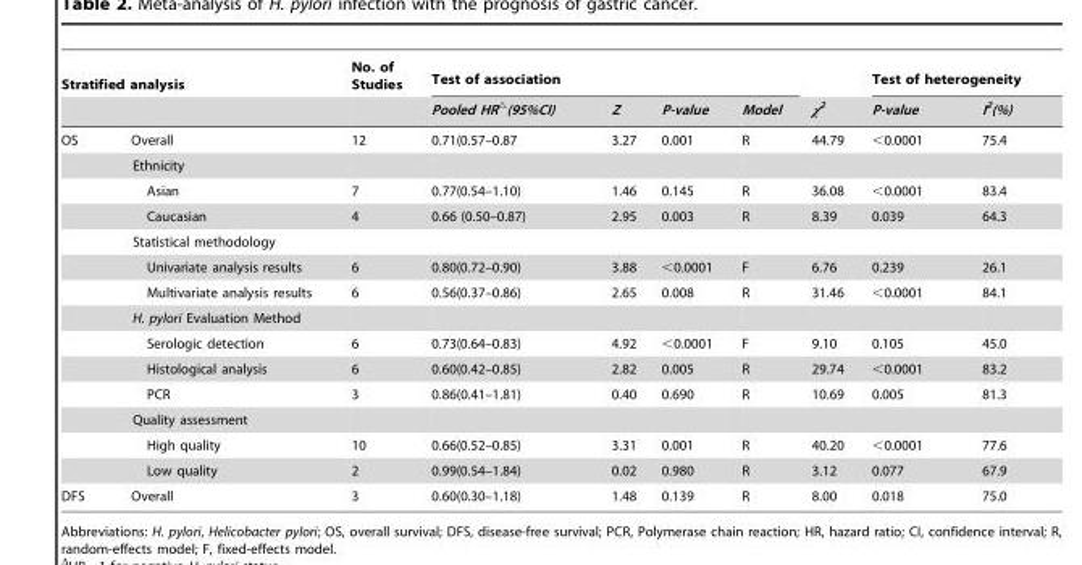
<table><thead><tr><td colspan="2">Stratified analysis</td><td rowspan="2">No. of Studies</td><td colspan="4">Test of association</td><td rowspan="2">χ<sup>2</sup></td><td colspan="2">Test of heterogeneity</td></tr><tr><td></td><td></td><td>Pooled HR<sup>△</sup>(95%CI)</td><td>Z</td><td>P-value</td><td>Model</td><td>P-value</td><td>I<sup>2</sup>(%)</td></tr></thead><tbody><tr><td>OS</td><td>Overall</td><td>12</td><td>0.71(0.57–0.87</td><td>3.27</td><td>0.001</td><td>R</td><td>44.79</td><td>&lt;0.0001</td><td>75.4</td></tr><tr><td colspan="10">Ethnicity</td></tr><tr><td colspan="2">Asian</td><td>7</td><td>0.77(0.54–1.10)</td><td>1.46</td><td>0.145</td><td>R</td><td>36.08</td><td>&lt;0.0001</td><td>83.4</td></tr><tr><td colspan="2">Caucasian</td><td>4</td><td>0.66 (0.50–0.87)</td><td>2.95</td><td>0.003</td><td>R</td><td>8.39</td><td>0.039</td><td>64.3</td></tr><tr><td colspan="10">Statistical methodology</td></tr><tr><td colspan="2">Univariate analysis results</td><td>6</td><td>0.80(0.72–0.90)</td><td>3.88</td><td>&lt;0.0001</td><td>F</td><td>6.76</td><td>0.239</td><td>26.1</td></tr><tr><td colspan="2">Multivariate analysis results</td><td>6</td><td>0.56(0.37–0.86)</td><td>2.65</td><td>0.008</td><td>R</td><td>31.46</td><td>&lt;0.0001</td><td>84.1</td></tr><tr><td colspan="10">H. pylori Evaluation Method</td></tr><tr><td colspan="2">Serologic detection</td><td>6</td><td>0.73(0.64–0.83)</td><td>4.92</td><td>&lt;0.0001</td><td>F</td><td>9.10</td><td>0.105</td><td>45.0</td></tr><tr><td colspan="2">Histological analysis</td><td>6</td><td>0.60(0.42–0.85)</td><td>2.82</td><td>0.005</td><td>R</td><td>29.74</td><td>&lt;0.0001</td><td>83.2</td></tr><tr><td colspan="2">PCR</td><td>3</td><td>0.86(0.41–1.81)</td><td>0.40</td><td>0.690</td><td>R</td><td>10.69</td><td>0.005</td><td>81.3</td></tr><tr><td colspan="10">Quality assessment</td></tr><tr><td colspan="2">High quality</td><td>10</td><td>0.66(0.52–0.85)</td><td>3.31</td><td>0.001</td><td>R</td><td>40.20</td><td>&lt;0.0001</td><td>77.6</td></tr><tr><td colspan="2">Low quality</td><td>2</td><td>0.99(0.54–1.84)</td><td>0.02</td><td>0.980</td><td>R</td><td>3.12</td><td>0.077</td><td>67.9</td></tr><tr><td>DFS</td><td>Overall</td><td>3</td><td>0.60(0.30–1.18)</td><td>1.48</td><td>0.139</td><td>R</td><td>8.00</td><td>0.018</td><td>75.0</td></tr></tbody></table>